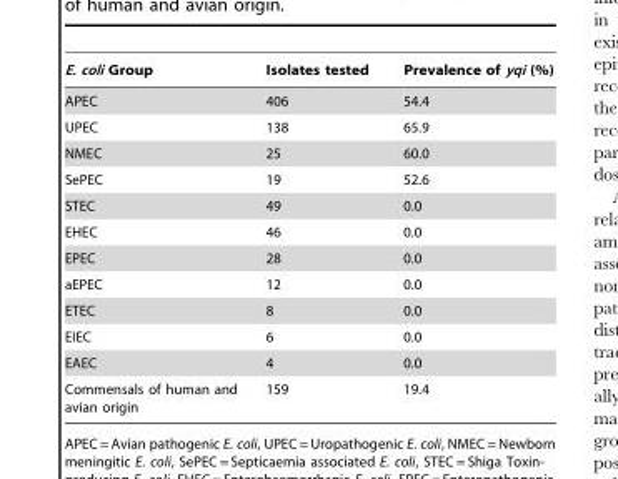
<table><thead><tr><td>E. coli Group</td><td>Isolates tested</td><td>Prevalence of yqi (%)</td></tr></thead><tbody><tr><td>APEC</td><td>406</td><td>54.4</td></tr><tr><td>UPEC</td><td>138</td><td>65.9</td></tr><tr><td>NMEC</td><td>25</td><td>60.0</td></tr><tr><td>SePEC</td><td>19</td><td>52.6</td></tr><tr><td>STEC</td><td>49</td><td>0.0</td></tr><tr><td>EHEC</td><td>46</td><td>0.0</td></tr><tr><td>EPEC</td><td>28</td><td>0.0</td></tr><tr><td>aEPEC</td><td>12</td><td>0.0</td></tr><tr><td>ETEC</td><td>8</td><td>0.0</td></tr><tr><td>EIEC</td><td>6</td><td>0.0</td></tr><tr><td>EAEC</td><td>4</td><td>0.0</td></tr><tr><td>Commensals of human and avian origin</td><td>159</td><td>19.4</td></tr></tbody></table>